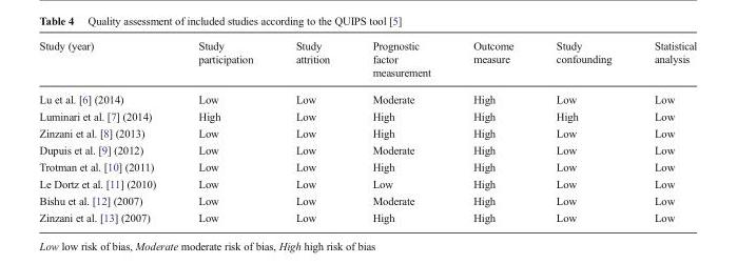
<table><thead><tr><td>Study (year)</td><td>Study participation</td><td>Study attrition</td><td>Prognostic factor measurement</td><td>Outcome measure</td><td>Study confounding</td><td>Statistical analysis</td></tr></thead><tbody><tr><td>Lu et al. [6] (2014)</td><td>Low</td><td>Low</td><td>Moderate</td><td>High</td><td>Low</td><td>Low</td></tr><tr><td>Luminari et al. [7] (2014)</td><td>High</td><td>Low</td><td>High</td><td>High</td><td>High</td><td>Low</td></tr><tr><td>Zinzani et al. [8] (2013)</td><td>Low</td><td>Low</td><td>High</td><td>High</td><td>Low</td><td>Low</td></tr><tr><td>Dupuis et al. [9] (2012)</td><td>Low</td><td>Low</td><td>Moderate</td><td>High</td><td>Low</td><td>Low</td></tr><tr><td>Trotman et al. [10] (2011)</td><td>Low</td><td>Low</td><td>High</td><td>High</td><td>Low</td><td>Low</td></tr><tr><td>Le Dortz et al. [11] (2010)</td><td>Low</td><td>Low</td><td>Low</td><td>High</td><td>Low</td><td>Low</td></tr><tr><td>Bishu et al. [12] (2007)</td><td>Low</td><td>Low</td><td>Moderate</td><td>High</td><td>Low</td><td>Low</td></tr><tr><td>Zinzani et al. [13] (2007)</td><td>Low</td><td>Low</td><td>High</td><td>High</td><td>Low</td><td>Low</td></tr></tbody></table>